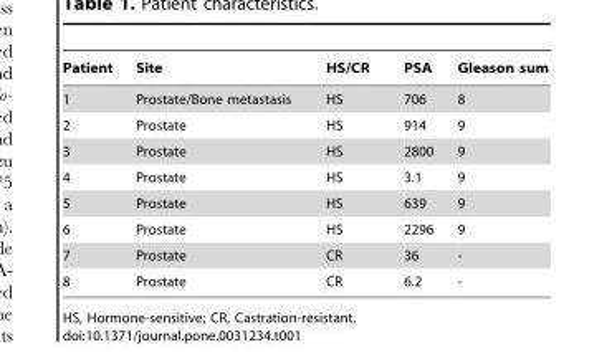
<table><thead><tr><td>Patient</td><td>Site</td><td>HS/CR</td><td>PSA</td><td>Gleason sum</td></tr></thead><tbody><tr><td>1</td><td>Prostate/Bone metastasis</td><td>HS</td><td>706</td><td>8</td></tr><tr><td>2</td><td>Prostate</td><td>HS</td><td>914</td><td>9</td></tr><tr><td>3</td><td>Prostate</td><td>HS</td><td>2800</td><td>9</td></tr><tr><td>4</td><td>Prostate</td><td>HS</td><td>3.1</td><td>9</td></tr><tr><td>5</td><td>Prostate</td><td>HS</td><td>639</td><td>9</td></tr><tr><td>6</td><td>Prostate</td><td>HS</td><td>2296</td><td>9</td></tr><tr><td>7</td><td>Prostate</td><td>CR</td><td>36</td><td>-</td></tr><tr><td>8</td><td>Prostate</td><td>CR</td><td>6.2</td><td>-</td></tr></tbody></table>